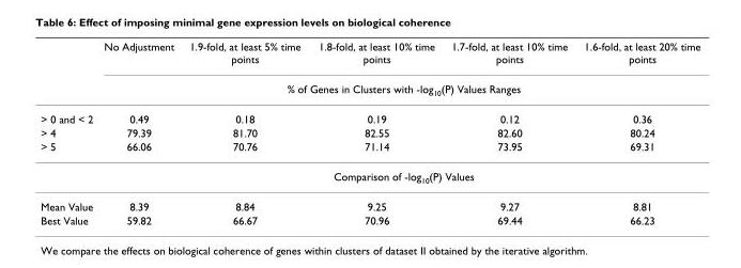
<table><thead><tr><td rowspan="2"></td><td>No Adjustment</td><td>1.9-fold, at least 5% time points</td><td>1.8-fold, at least 10% time points</td><td>1.7-fold, at least 10% time points</td><td>1.6-fold, at least 20% time points</td></tr><tr><td colspan="5">% of Genes in Clusters with -log<sub>10</sub>(P) Values Ranges</td></tr></thead><tbody><tr><td>&gt; 0 and &lt; 2</td><td>0.49</td><td>0.18</td><td>0.19</td><td>0.12</td><td>0.36</td></tr><tr><td>&gt; 4</td><td>79.39</td><td>81.70</td><td>82.55</td><td>82.60</td><td>80.24</td></tr><tr><td rowspan="2">&gt; 5</td><td>66.06</td><td>70.76</td><td>71.14</td><td>73.95</td><td>69.31</td></tr><tr><td colspan="5">Comparison of -log<sub>10</sub>(P) Values</td></tr><tr><td>Mean Value</td><td>8.39</td><td>8.84</td><td>9.25</td><td>9.27</td><td>8.81</td></tr><tr><td>Best Value</td><td>59.82</td><td>66.67</td><td>70.96</td><td>69.44</td><td>66.23</td></tr></tbody></table>